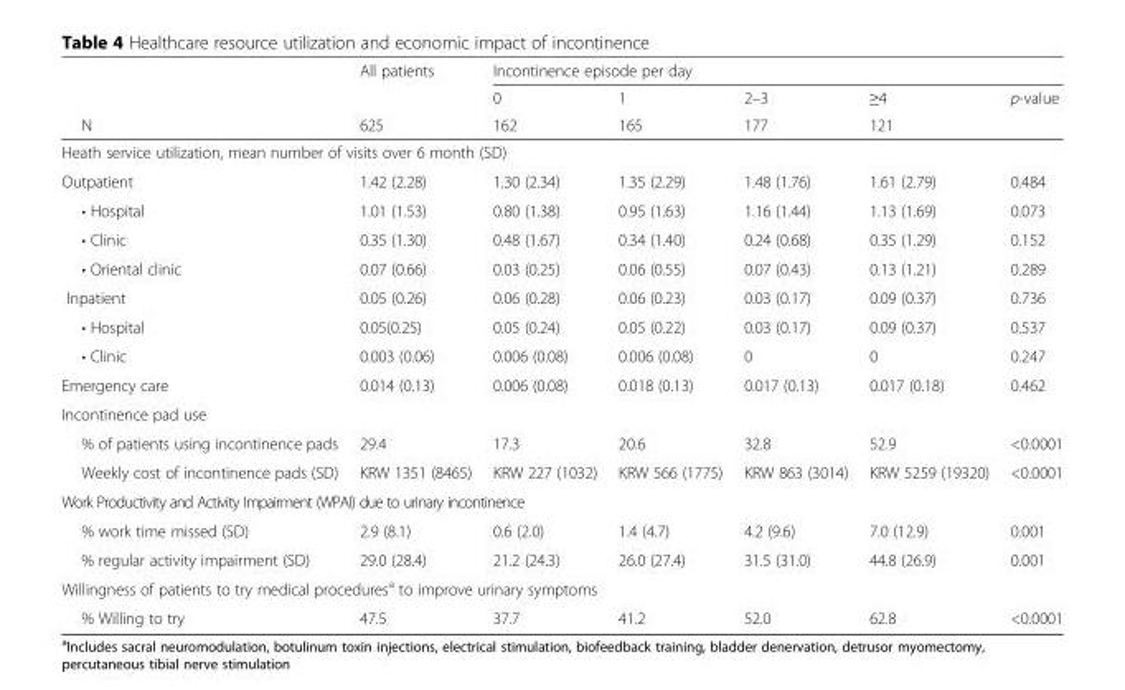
<table><thead><tr><td rowspan="3">N</td><td rowspan="3">All patients 625</td><td colspan="5">Incontinence episode per day</td></tr><tr><td rowspan="2">0 162</td><td rowspan="2">1 165</td><td rowspan="2">2–3 177</td><td rowspan="2">≥4 121</td><td rowspan="2">p-value</td></tr><tr></tr></thead><tbody><tr><td colspan="7">Heath service utilization, mean number of visits over 6 month (SD)</td></tr><tr><td>Outpatient</td><td>1.42 (2.28)</td><td>1.30 (2.34)</td><td>1.35 (2.29)</td><td>1.48 (1.76)</td><td>1.61 (2.79)</td><td>0.484</td></tr><tr><td>• Hospital</td><td>1.01 (1.53)</td><td>0.80 (1.38)</td><td>0.95 (1.63)</td><td>1.16 (1.44)</td><td>1.13 (1.69)</td><td>0.073</td></tr><tr><td>• Clinic</td><td>0.35 (1.30)</td><td>0.48 (1.67)</td><td>0.34 (1.40)</td><td>0.24 (0.68)</td><td>0.35 (1.29)</td><td>0.152</td></tr><tr><td>• Oriental clinic</td><td>0.07 (0.66)</td><td>0.03 (0.25)</td><td>0.06 (0.55)</td><td>0.07 (0.43)</td><td>0.13 (1.21)</td><td>0.289</td></tr><tr><td>Inpatient</td><td>0.05 (0.26)</td><td>0.06 (0.28)</td><td>0.06 (0.23)</td><td>0.03 (0.17)</td><td>0.09 (0.37)</td><td>0.736</td></tr><tr><td>• Hospital</td><td>0.05(0.25)</td><td>0.05 (0.24)</td><td>0.05 (0.22)</td><td>0.03 (0.17)</td><td>0.09 (0.37)</td><td>0.537</td></tr><tr><td>• Clinic</td><td>0.003 (0.06)</td><td>0.006 (0.08)</td><td>0.006 (0.08)</td><td>0</td><td>0</td><td>0.247</td></tr><tr><td>Emergency care</td><td>0.014 (0.13)</td><td>0.006 (0.08)</td><td>0.018 (0.13)</td><td>0.017 (0.13)</td><td>0.017 (0.18)</td><td>0.462</td></tr><tr><td colspan="7">Incontinence pad use</td></tr><tr><td>% of patients using incontinence pads</td><td>29.4</td><td>17.3</td><td>20.6</td><td>32.8</td><td>52.9</td><td>&lt;0.0001</td></tr><tr><td>Weekly cost of incontinence pads (SD)</td><td>KRW 1351 (8465)</td><td>KRW 227 (1032)</td><td>KRW 566 (1775)</td><td>KRW 863 (3014)</td><td>KRW 5259 (19320)</td><td>&lt;0.0001</td></tr><tr><td colspan="7">Work Productivity and Activity Impairment (WPAI) due to urinary incontinence</td></tr><tr><td>% work time missed (SD)</td><td>2.9 (8.1)</td><td>0.6 (2.0)</td><td>1.4 (4.7)</td><td>4.2 (9.6)</td><td>7.0 (12.9)</td><td>0.001</td></tr><tr><td>% regular activity impairment (SD)</td><td>29.0 (28.4)</td><td>21.2 (24.3)</td><td>26.0 (27.4)</td><td>31.5 (31.0)</td><td>44.8 (26.9)</td><td>0.001</td></tr><tr><td colspan="7">Willingness of patients to try medical procedures<sup>a</sup> to improve urinary symptoms</td></tr><tr><td>% Willing to try</td><td>47.5</td><td>37.7</td><td>41.2</td><td>52.0</td><td>62.8</td><td>&lt;0.0001</td></tr></tbody></table>